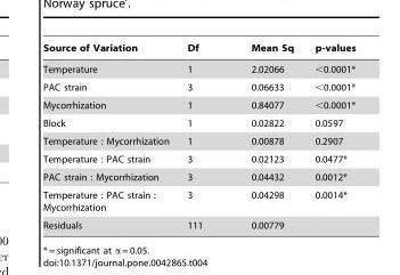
<table><thead><tr><td>Source of Variation</td><td>Df</td><td>Mean Sq</td><td>p-values</td></tr></thead><tbody><tr><td>Temperature</td><td>1</td><td>2.02066</td><td>&lt;0.0001*</td></tr><tr><td>PAC strain</td><td>3</td><td>0.06633</td><td>&lt;0.0001*</td></tr><tr><td>Mycorrhization</td><td>1</td><td>0.84077</td><td>&lt;0.0001*</td></tr><tr><td>Block</td><td>1</td><td>0.02822</td><td>0.0597</td></tr><tr><td>Temperature : Mycorrhization</td><td>1</td><td>0.00878</td><td>0.2907</td></tr><tr><td>Temperature : PAC strain</td><td>3</td><td>0.02123</td><td>0.0477*</td></tr><tr><td>PAC strain : Mycorrhization</td><td>3</td><td>0.04432</td><td>0.0012*</td></tr><tr><td>Temperature : PAC strain : Mycorrhization</td><td>3</td><td>0.04298</td><td>0.0014*</td></tr><tr><td>Residuals</td><td>111</td><td>0.00779</td><td></td></tr></tbody></table>